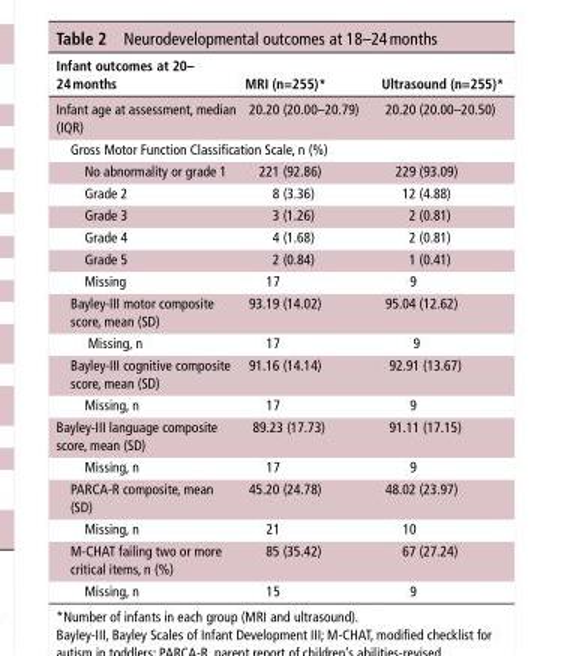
<table><thead><tr><td>Infant outcomes at 20– 24 months</td><td>MrI (n=255)*</td><td>ultrasound (n=255)*</td></tr></thead><tbody><tr><td>Infant age at assessment, median (IQR)</td><td>20.20 (20.00–20.79)</td><td>20.20 (20.00–20.50)</td></tr><tr><td colspan="3">Gross Motor Function Classification Scale, n (%)</td></tr><tr><td>No abnormality or grade 1</td><td>221 (92.86)</td><td>229 (93.09)</td></tr><tr><td>Grade 2</td><td>8 (3.36)</td><td>12 (4.88)</td></tr><tr><td>Grade 3</td><td>3 (1.26)</td><td>2 (0.81)</td></tr><tr><td>Grade 4</td><td>4 (1.68)</td><td>2 (0.81)</td></tr><tr><td>Grade 5</td><td>2 (0.84)</td><td>1 (0.41)</td></tr><tr><td>Missing</td><td>17</td><td>9</td></tr><tr><td>Bayley-III motor composite score, mean (SD)</td><td>93.19 (14.02)</td><td>95.04 (12.62)</td></tr><tr><td>Missing, n</td><td>17</td><td>9</td></tr><tr><td>Bayley-III cognitive composite score, mean (SD)</td><td>91.16 (14.14)</td><td>92.91 (13.67)</td></tr><tr><td>Missing, n</td><td>17</td><td>9</td></tr><tr><td>Bayley-III language composite score, mean (SD)</td><td>89.23 (17.73)</td><td>91.11 (17.15)</td></tr><tr><td>Missing, n</td><td>17</td><td>9</td></tr><tr><td>PARCA-R composite, mean (SD)</td><td>45.20 (24.78)</td><td>48.02 (23.97)</td></tr><tr><td>Missing, n</td><td>21</td><td>10</td></tr><tr><td>M-CHAT failing two or more critical items, n (%)</td><td>85 (35.42)</td><td>67 (27.24)</td></tr><tr><td>Missing, n</td><td>15</td><td>9</td></tr></tbody></table>